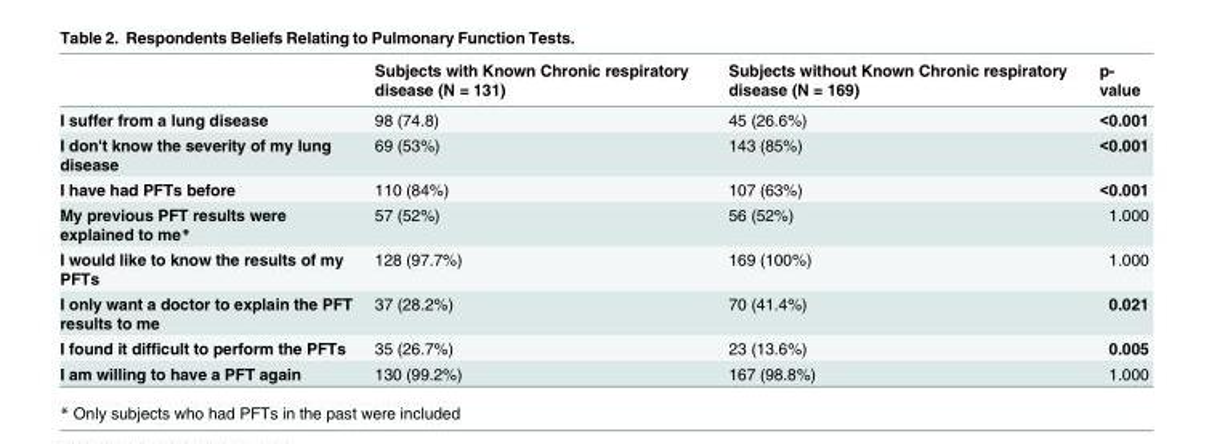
<table><thead><tr><td></td><td>Subjects with Known Chronic respiratory disease (N = 131)</td><td>Subjects without Known Chronic respiratory disease (N = 169)</td><td>p- value</td></tr></thead><tbody><tr><td>I suffer from a lung disease</td><td>98 (74.8)</td><td>45 (26.6%)</td><td>&lt;0.001</td></tr><tr><td>I don&#x27;t know the severity of my lung disease</td><td>69 (53%)</td><td>143 (85%)</td><td>&lt;0.001</td></tr><tr><td>I have had PFTs before</td><td>110 (84%)</td><td>107 (63%)</td><td>&lt;0.001</td></tr><tr><td>My previous PFT results were explained to me*</td><td>57 (52%)</td><td>56 (52%)</td><td>1.000</td></tr><tr><td>I would like to know the results of my PFTs</td><td>128 (97.7%)</td><td>169 (100%)</td><td>1.000</td></tr><tr><td>I only want a doctor to explain the PFT results to me</td><td>37 (28.2%)</td><td>70 (41.4%)</td><td>0.021</td></tr><tr><td>I found it difficult to perform the PFTs</td><td>35 (26.7%)</td><td>23 (13.6%)</td><td>0.005</td></tr><tr><td>I am willing to have a PFT again</td><td>130 (99.2%)</td><td>167 (98.8%)</td><td>1.000</td></tr></tbody></table>